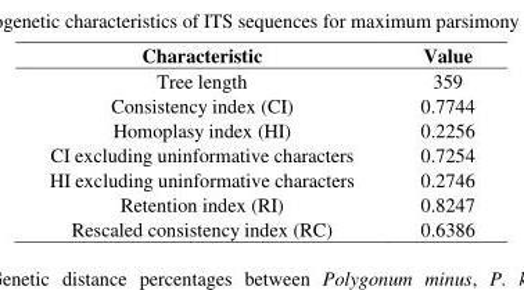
<table><thead><tr><td>Characteristic</td><td>Value</td></tr></thead><tbody><tr><td>Tree length</td><td>359</td></tr><tr><td>Consistency index (CI)</td><td>0.7744</td></tr><tr><td>Homoplasy index (HI)</td><td>0.2256</td></tr><tr><td>CI excluding uninformative characters</td><td>0.7254</td></tr><tr><td>HI excluding uninformative characters</td><td>0.2746</td></tr><tr><td>Retention index (RI)</td><td>0.8247</td></tr><tr><td>Rescaled consistency index (RC)</td><td>0.6386</td></tr></tbody></table>